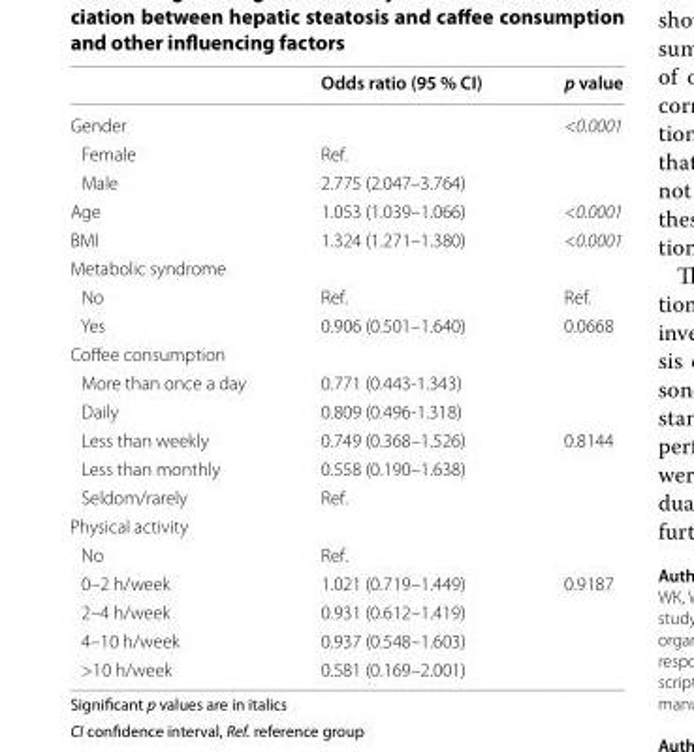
<table><thead><tr><td></td><td>Odds ratio (95 % CI)</td><td>p value</td></tr></thead><tbody><tr><td>Gender</td><td></td><td>&lt;0.0001</td></tr><tr><td>Female</td><td>Ref.</td><td></td></tr><tr><td>Male</td><td>2.775 (2.047–3.764)</td><td></td></tr><tr><td>Age</td><td>1.053 (1.039–1.066)</td><td>&lt;0.0001</td></tr><tr><td>BMI</td><td>1.324 (1.271–1.380)</td><td>&lt;0.0001</td></tr><tr><td colspan="3">Metabolic syndrome</td></tr><tr><td>No</td><td>Ref.</td><td>Ref.</td></tr><tr><td>Yes</td><td>0.906 (0.501–1.640)</td><td>0.0668</td></tr><tr><td colspan="3">Coffee consumption</td></tr><tr><td>More than once a day</td><td>0.771 (0.443-1.343)</td><td></td></tr><tr><td>Daily</td><td>0.809 (0.496-1.318)</td><td></td></tr><tr><td>Less than weekly</td><td>0.749 (0.368–1.526)</td><td>0.8144</td></tr><tr><td>Less than monthly</td><td>0.558 (0.190–1.638)</td><td></td></tr><tr><td>Seldom/rarely</td><td>Ref.</td><td></td></tr><tr><td colspan="3">Physical activity</td></tr><tr><td>No</td><td>Ref.</td><td></td></tr><tr><td>0–2 h/week</td><td>1.021 (0.719–1.449)</td><td>0.9187</td></tr><tr><td>2–4 h/week</td><td>0.931 (0.612–1.419)</td><td></td></tr><tr><td>4–10 h/week</td><td>0.937 (0.548–1.603)</td><td></td></tr><tr><td>&gt;10 h/week</td><td>0.581 (0.169–2.001)</td><td></td></tr></tbody></table>